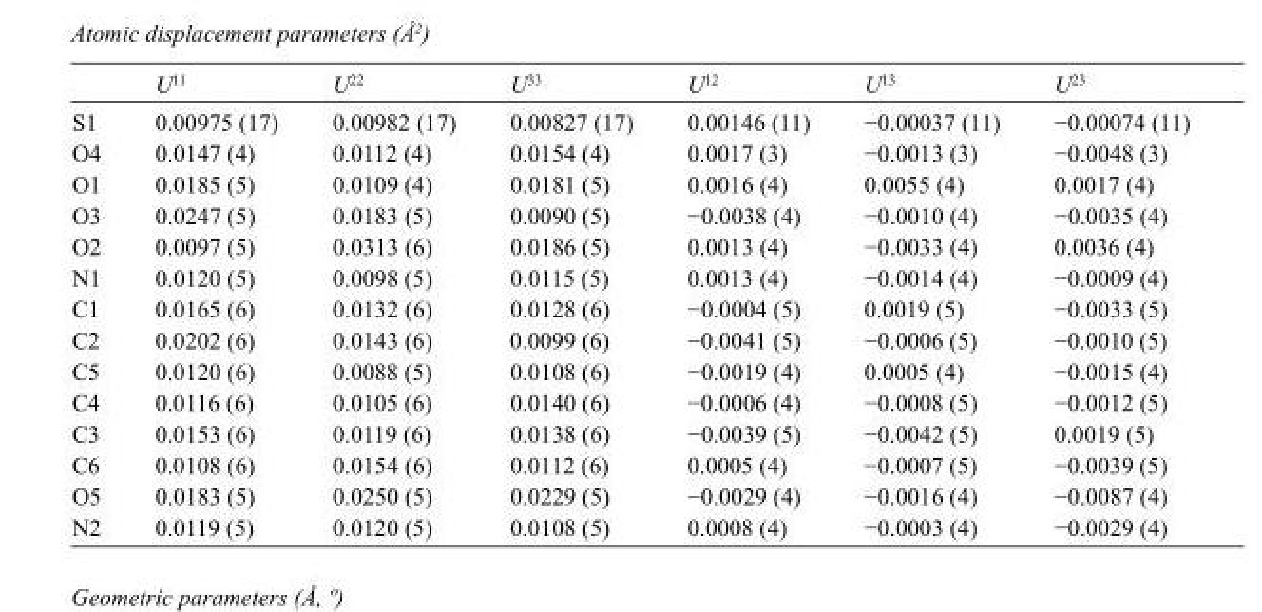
<table><thead><tr><td></td><td>U<sup>11</sup></td><td>U<sup>22</sup></td><td>U<sup>33</sup></td><td>U<sup>12</sup></td><td>U<sup>13</sup></td><td>U<sup>23</sup></td></tr></thead><tbody><tr><td>S1</td><td>0.00975 (17)</td><td>0.00982 (17)</td><td>0.00827 (17)</td><td>0.00146 (11)</td><td>−0.00037 (11)</td><td>−0.00074 (11)</td></tr><tr><td>O4</td><td>0.0147 (4)</td><td>0.0112 (4)</td><td>0.0154 (4)</td><td>0.0017 (3)</td><td>−0.0013 (3)</td><td>−0.0048 (3)</td></tr><tr><td>O1</td><td>0.0185 (5)</td><td>0.0109 (4)</td><td>0.0181 (5)</td><td>0.0016 (4)</td><td>0.0055 (4)</td><td>0.0017 (4)</td></tr><tr><td>O3</td><td>0.0247 (5)</td><td>0.0183 (5)</td><td>0.0090 (5)</td><td>−0.0038 (4)</td><td>−0.0010 (4)</td><td>−0.0035 (4)</td></tr><tr><td>O2</td><td>0.0097 (5)</td><td>0.0313 (6)</td><td>0.0186 (5)</td><td>0.0013 (4)</td><td>−0.0033 (4)</td><td>0.0036 (4)</td></tr><tr><td>N1</td><td>0.0120 (5)</td><td>0.0098 (5)</td><td>0.0115 (5)</td><td>0.0013 (4)</td><td>−0.0014 (4)</td><td>−0.0009 (4)</td></tr><tr><td>C1</td><td>0.0165 (6)</td><td>0.0132 (6)</td><td>0.0128 (6)</td><td>−0.0004 (5)</td><td>0.0019 (5)</td><td>−0.0033 (5)</td></tr><tr><td>C2</td><td>0.0202 (6)</td><td>0.0143 (6)</td><td>0.0099 (6)</td><td>−0.0041 (5)</td><td>−0.0006 (5)</td><td>−0.0010 (5)</td></tr><tr><td>C5</td><td>0.0120 (6)</td><td>0.0088 (5)</td><td>0.0108 (6)</td><td>−0.0019 (4)</td><td>0.0005 (4)</td><td>−0.0015 (4)</td></tr><tr><td>C4</td><td>0.0116 (6)</td><td>0.0105 (6)</td><td>0.0140 (6)</td><td>−0.0006 (4)</td><td>−0.0008 (5)</td><td>−0.0012 (5)</td></tr><tr><td>C3</td><td>0.0153 (6)</td><td>0.0119 (6)</td><td>0.0138 (6)</td><td>−0.0039 (5)</td><td>−0.0042 (5)</td><td>0.0019 (5)</td></tr><tr><td>C6</td><td>0.0108 (6)</td><td>0.0154 (6)</td><td>0.0112 (6)</td><td>0.0005 (4)</td><td>−0.0007 (5)</td><td>−0.0039 (5)</td></tr><tr><td>O5</td><td>0.0183 (5)</td><td>0.0250 (5)</td><td>0.0229 (5)</td><td>−0.0029 (4)</td><td>−0.0016 (4)</td><td>−0.0087 (4)</td></tr><tr><td>N2</td><td>0.0119 (5)</td><td>0.0120 (5)</td><td>0.0108 (5)</td><td>0.0008 (4)</td><td>−0.0003 (4)</td><td>−0.0029 (4)</td></tr></tbody></table>